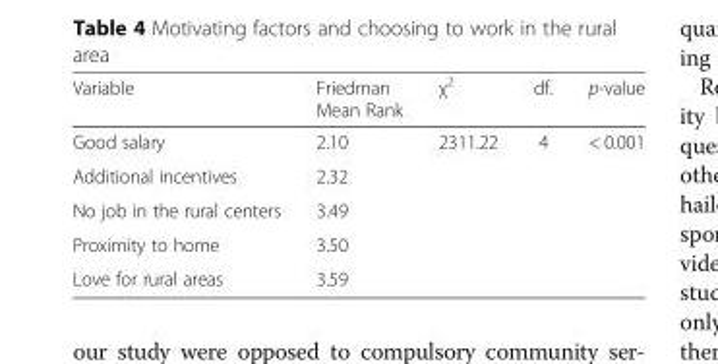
<table><thead><tr><td>Variable</td><td>Friedman Mean Rank</td><td>χ<sup>2</sup></td><td>df.</td><td>p-value</td></tr></thead><tbody><tr><td>Good salary</td><td>2.10</td><td>2311.22</td><td>4</td><td>&lt; 0.001</td></tr><tr><td>Additional incentives</td><td>2.32</td><td></td><td></td><td></td></tr><tr><td>No job in the rural centers</td><td>3.49</td><td></td><td></td><td></td></tr><tr><td>Proximity to home</td><td>3.50</td><td></td><td></td><td></td></tr><tr><td>Love for rural areas</td><td>3.59</td><td></td><td></td><td></td></tr></tbody></table>